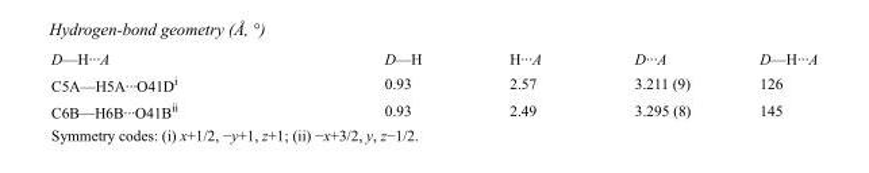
<table><tbody><tr><td>D—H···A</td><td>D—H</td><td>H···A</td><td>D···A</td><td>D—H···A</td></tr><tr><td>C5A—H5A···O41D<sup>i</sup></td><td>0.93</td><td>2.57</td><td>3.211 (9)</td><td>126</td></tr><tr><td>C6B—H6B···O41B<sup>ii</sup></td><td>0.93</td><td>2.49</td><td>3.295 (8)</td><td>145</td></tr></tbody></table>